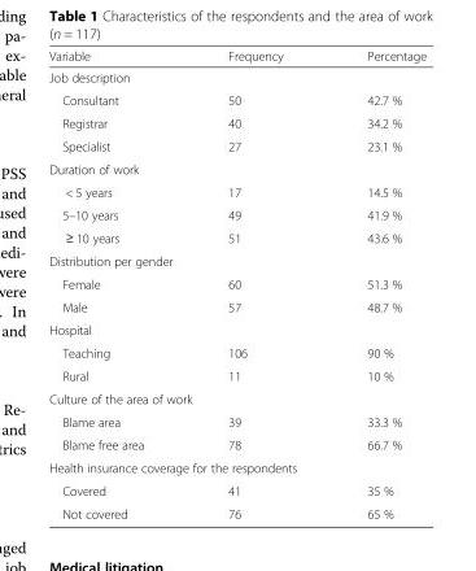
<table><thead><tr><td>Variable</td><td>Frequency</td><td>Percentage</td></tr></thead><tbody><tr><td colspan="3">Job description</td></tr><tr><td>Consultant</td><td>50</td><td>42.7 %</td></tr><tr><td>Registrar</td><td>40</td><td>34.2 %</td></tr><tr><td>Specialist</td><td>27</td><td>23.1 %</td></tr><tr><td colspan="3">Duration of work</td></tr><tr><td>&lt; 5 years</td><td>17</td><td>14.5 %</td></tr><tr><td>5–10 years</td><td>49</td><td>41.9 %</td></tr><tr><td>≥ 10 years</td><td>51</td><td>43.6 %</td></tr><tr><td colspan="3">Distribution per gender</td></tr><tr><td>Female</td><td>60</td><td>51.3 %</td></tr><tr><td>Male</td><td>57</td><td>48.7 %</td></tr><tr><td colspan="3">Hospital</td></tr><tr><td>Teaching</td><td>106</td><td>90 %</td></tr><tr><td>Rural</td><td>11</td><td>10 %</td></tr><tr><td colspan="3">Culture of the area of work</td></tr><tr><td>Blame area</td><td>39</td><td>33.3 %</td></tr><tr><td>Blame free area</td><td>78</td><td>66.7 %</td></tr><tr><td colspan="3">Health insurance coverage for the respondents</td></tr><tr><td>Covered</td><td>41</td><td>35 %</td></tr><tr><td>Not covered</td><td>76</td><td>65 %</td></tr></tbody></table>